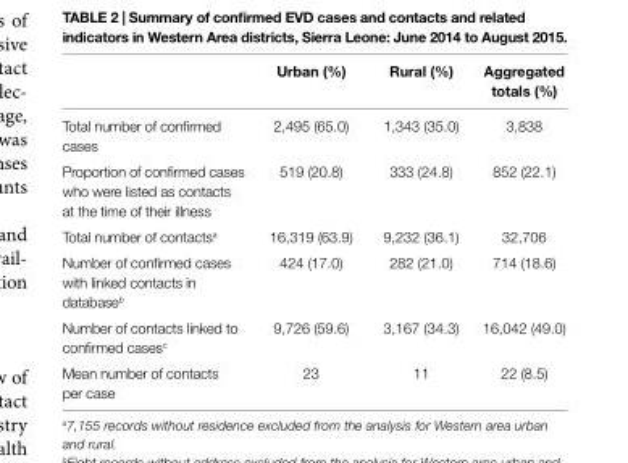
<table><thead><tr><td></td><td>Urban (%)</td><td>rural (%)</td><td>aggregated totals (%)</td></tr></thead><tbody><tr><td>Total number of confirmed cases</td><td>2,495 (65.0)</td><td>1,343 (35.0)</td><td>3,838</td></tr><tr><td>Proportion of confirmed cases who were listed as contacts at the time of their illness</td><td>519 (20.8)</td><td>333 (24.8)</td><td>852 (22.1)</td></tr><tr><td>Total number of contacts<sup>a</sup></td><td>16,319 (63.9)</td><td>9,232 (36.1)</td><td>32,706</td></tr><tr><td>Number of confirmed cases with linked contacts in database<sup>b</sup></td><td>424 (17.0)</td><td>282 (21.0)</td><td>714 (18.6)</td></tr><tr><td>Number of contacts linked to confirmed cases<sup>c</sup></td><td>9,726 (59.6)</td><td>3,167 (34.3)</td><td>16,042 (49.0)</td></tr><tr><td>Mean number of contacts per case</td><td>23</td><td>11</td><td>22 (8.5)</td></tr></tbody></table>